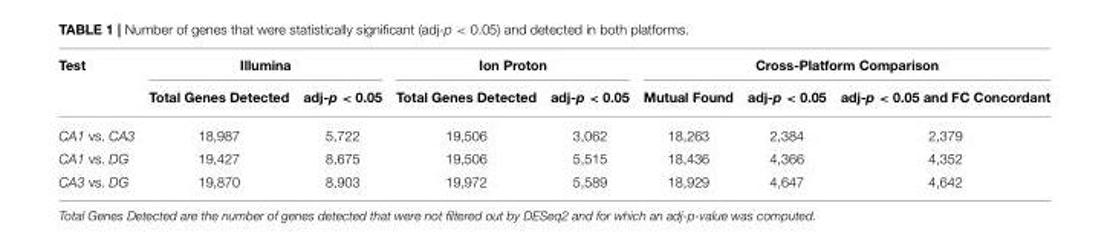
<table><thead><tr><td rowspan="2">Test</td><td colspan="2">Illumina</td><td colspan="2">Ion Proton</td><td colspan="3">Cross-Platform Comparison</td></tr><tr><td>Total Genes Detected</td><td>adj-p &lt; 0.05</td><td>Total Genes Detected</td><td>adj-p &lt; 0.05</td><td>Mutual Found</td><td>adj-p &lt; 0.05</td><td>adj-p &lt; 0.05 and FC Concordant</td></tr></thead><tbody><tr><td>CA1 vs. CA3</td><td>18,987</td><td>5,722</td><td>19,506</td><td>3,062</td><td>18,263</td><td>2,384</td><td>2,379</td></tr><tr><td>CA1 vs. DG</td><td>19,427</td><td>8,675</td><td>19,506</td><td>5,515</td><td>18,436</td><td>4,366</td><td>4,352</td></tr><tr><td>CA3 vs. DG</td><td>19,870</td><td>8,903</td><td>19,972</td><td>5,589</td><td>18,929</td><td>4,647</td><td>4,642</td></tr></tbody></table>